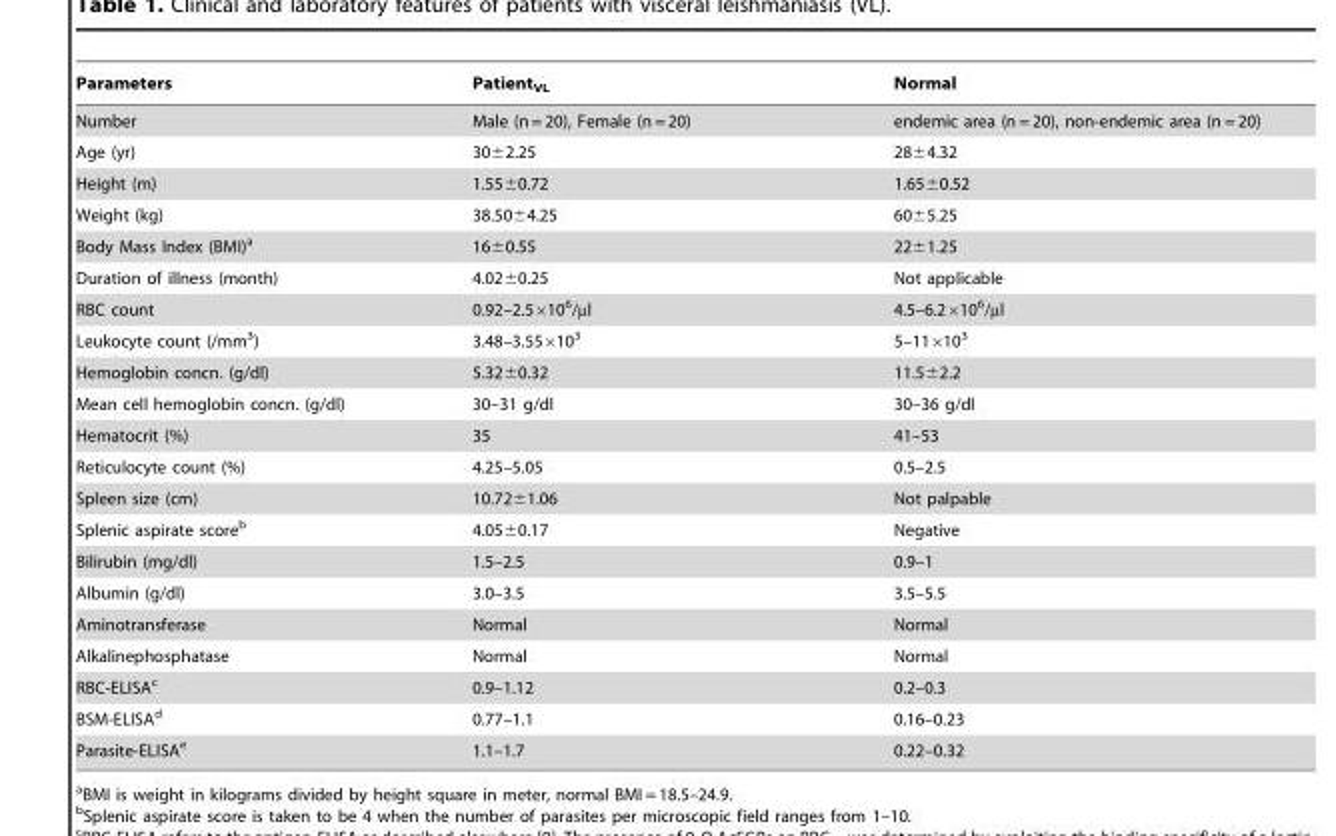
<table><thead><tr><td>Parameters</td><td>PatientVL</td><td>Normal</td></tr></thead><tbody><tr><td>Number</td><td>Male (n = 20), Female (n = 20)</td><td>endemic area (n = 20), non-endemic area (n = 20)</td></tr><tr><td>Age (yr)</td><td>30±2.25</td><td>28±4.32</td></tr><tr><td>Height (m)</td><td>1.55±0.72</td><td>1.65±0.52</td></tr><tr><td>Weight (kg)</td><td>38.50±4.25</td><td>60±5.25</td></tr><tr><td>Body Mass Index (BMI)a</td><td>16±0.55</td><td>22±1.25</td></tr><tr><td>Duration of illness (month)</td><td>4.02±0.25</td><td>Not applicable</td></tr><tr><td>RBC count</td><td>0.92–2.5×106/µl</td><td>4.5–6.2×106/µl</td></tr><tr><td>Leukocyte count (/mm3)</td><td>3.48–3.55×103</td><td>5–11×103</td></tr><tr><td>Hemoglobin concn. (g/dl)</td><td>5.32±0.32</td><td>11.5±2.2</td></tr><tr><td>Mean cell hemoglobin concn. (g/dl)</td><td>30–31 g/dl</td><td>30–36 g/dl</td></tr><tr><td>Hematocrit (%)</td><td>35</td><td>41–53</td></tr><tr><td>Reticulocyte count (%)</td><td>4.25–5.05</td><td>0.5–2.5</td></tr><tr><td>Spleen size (cm)</td><td>10.72±1.06</td><td>Not palpable</td></tr><tr><td>Splenic aspirate scoreb</td><td>4.05±0.17</td><td>Negative</td></tr><tr><td>Bilirubin (mg/dl)</td><td>1.5–2.5</td><td>0.9–1</td></tr><tr><td>Albumin (g/dl)</td><td>3.0–3.5</td><td>3.5–5.5</td></tr><tr><td>Aminotransferase</td><td>Normal</td><td>Normal</td></tr><tr><td>Alkalinephosphatase</td><td>Normal</td><td>Normal</td></tr><tr><td>RBC-ELISAc</td><td>0.9–1.12</td><td>0.2–0.3</td></tr><tr><td>BSM-ELISAd</td><td>0.77–1.1</td><td>0.16–0.23</td></tr><tr><td>Parasite-ELISAe</td><td>1.1–1.7</td><td>0.22–0.32</td></tr></tbody></table>